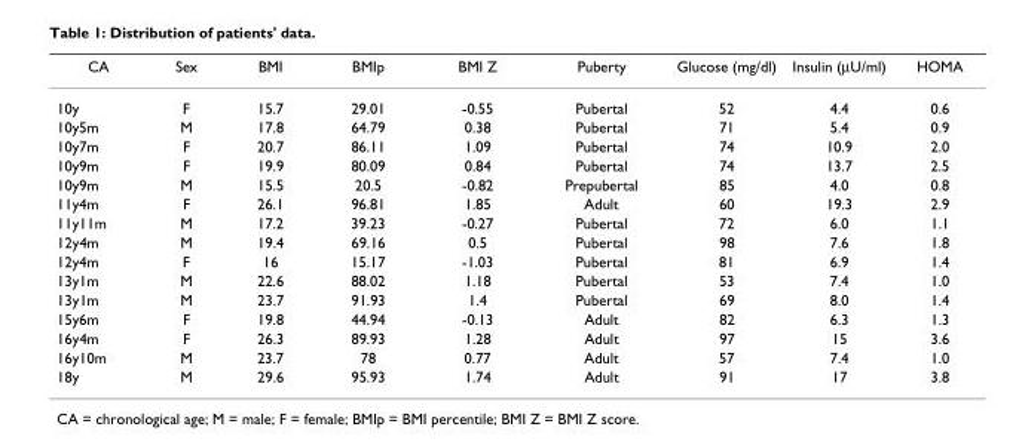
<table><thead><tr><td>CA</td><td>Sex</td><td>BMI</td><td>BMIp</td><td>BMI Z</td><td>Puberty</td><td>Glucose (mg/dl)</td><td>Insulin (µU/ml)</td><td>HOMA</td></tr></thead><tbody><tr><td>10y</td><td>F</td><td>15.7</td><td>29.01</td><td>-0.55</td><td>Pubertal</td><td>52</td><td>4.4</td><td>0.6</td></tr><tr><td>10y5m</td><td>M</td><td>17.8</td><td>64.79</td><td>0.38</td><td>Pubertal</td><td>71</td><td>5.4</td><td>0.9</td></tr><tr><td>10y7m</td><td>F</td><td>20.7</td><td>86.11</td><td>1.09</td><td>Pubertal</td><td>74</td><td>10.9</td><td>2.0</td></tr><tr><td>10y9m</td><td>F</td><td>19.9</td><td>80.09</td><td>0.84</td><td>Pubertal</td><td>74</td><td>13.7</td><td>2.5</td></tr><tr><td>10y9m</td><td>M</td><td>15.5</td><td>20.5</td><td>-0.82</td><td>Prepubertal</td><td>85</td><td>4.0</td><td>0.8</td></tr><tr><td>11y4m</td><td>F</td><td>26.1</td><td>96.81</td><td>1.85</td><td>Adult</td><td>60</td><td>19.3</td><td>2.9</td></tr><tr><td>11y11m</td><td>M</td><td>17.2</td><td>39.23</td><td>-0.27</td><td>Pubertal</td><td>72</td><td>6.0</td><td>1.1</td></tr><tr><td>12y4m</td><td>M</td><td>19.4</td><td>69.16</td><td>0.5</td><td>Pubertal</td><td>98</td><td>7.6</td><td>1.8</td></tr><tr><td>12y4m</td><td>F</td><td>16</td><td>15.17</td><td>-1.03</td><td>Pubertal</td><td>81</td><td>6.9</td><td>1.4</td></tr><tr><td>13y1m</td><td>M</td><td>22.6</td><td>88.02</td><td>1.18</td><td>Pubertal</td><td>53</td><td>7.4</td><td>1.0</td></tr><tr><td>13y1m</td><td>M</td><td>23.7</td><td>91.93</td><td>1.4</td><td>Pubertal</td><td>69</td><td>8.0</td><td>1.4</td></tr><tr><td>15y6m</td><td>F</td><td>19.8</td><td>44.94</td><td>-0.13</td><td>Adult</td><td>82</td><td>6.3</td><td>1.3</td></tr><tr><td>16y4m</td><td>F</td><td>26.3</td><td>89.93</td><td>1.28</td><td>Adult</td><td>97</td><td>15</td><td>3.6</td></tr><tr><td>16y10m</td><td>M</td><td>23.7</td><td>78</td><td>0.77</td><td>Adult</td><td>57</td><td>7.4</td><td>1.0</td></tr><tr><td>18y</td><td>M</td><td>29.6</td><td>95.93</td><td>1.74</td><td>Adult</td><td>91</td><td>17</td><td>3.8</td></tr></tbody></table>